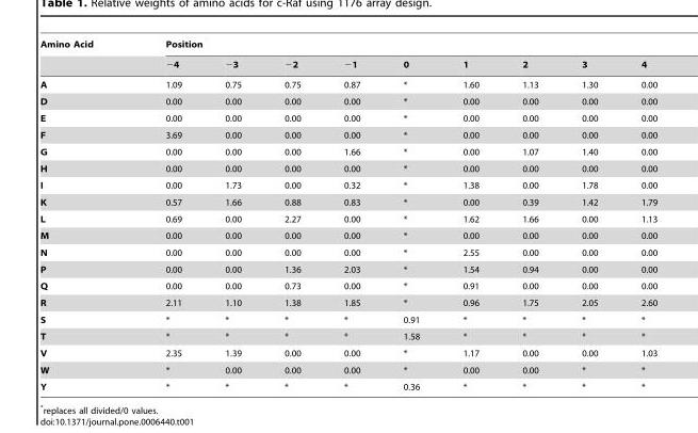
<table><thead><tr><td rowspan="2">Amino Acid</td><td colspan="9">Position</td></tr><tr><td>−4</td><td>−3</td><td>−2</td><td>−1</td><td>0</td><td>1</td><td>2</td><td>3</td><td>4</td></tr></thead><tbody><tr><td>A</td><td>1.09</td><td>0.75</td><td>0.75</td><td>0.87</td><td>*</td><td>1.60</td><td>1.13</td><td>1.30</td><td>0.00</td></tr><tr><td>D</td><td>0.00</td><td>0.00</td><td>0.00</td><td>0.00</td><td>*</td><td>0.00</td><td>0.00</td><td>0.00</td><td>0.00</td></tr><tr><td>E</td><td>0.00</td><td>0.00</td><td>0.00</td><td>0.00</td><td>*</td><td>0.00</td><td>0.00</td><td>0.00</td><td>0.00</td></tr><tr><td>F</td><td>3.69</td><td>0.00</td><td>0.00</td><td>0.00</td><td>*</td><td>0.00</td><td>0.00</td><td>0.00</td><td>0.00</td></tr><tr><td>G</td><td>0.00</td><td>0.00</td><td>0.00</td><td>1.66</td><td>*</td><td>0.00</td><td>1.07</td><td>1.40</td><td>0.00</td></tr><tr><td>H</td><td>0.00</td><td>0.00</td><td>0.00</td><td>0.00</td><td>*</td><td>0.00</td><td>0.00</td><td>0.00</td><td>0.00</td></tr><tr><td>I</td><td>0.00</td><td>1.73</td><td>0.00</td><td>0.32</td><td>*</td><td>1.38</td><td>0.00</td><td>1.78</td><td>0.00</td></tr><tr><td>K</td><td>0.57</td><td>1.66</td><td>0.88</td><td>0.83</td><td>*</td><td>0.00</td><td>0.39</td><td>1.42</td><td>1.79</td></tr><tr><td>L</td><td>0.69</td><td>0.00</td><td>2.27</td><td>0.00</td><td>*</td><td>1.62</td><td>1.66</td><td>0.00</td><td>1.13</td></tr><tr><td>M</td><td>0.00</td><td>0.00</td><td>0.00</td><td>0.00</td><td>*</td><td>0.00</td><td>0.00</td><td>0.00</td><td>0.00</td></tr><tr><td>N</td><td>0.00</td><td>0.00</td><td>0.00</td><td>0.00</td><td>*</td><td>2.55</td><td>0.00</td><td>0.00</td><td>0.00</td></tr><tr><td>P</td><td>0.00</td><td>0.00</td><td>1.36</td><td>2.03</td><td>*</td><td>1.54</td><td>0.94</td><td>0.00</td><td>0.00</td></tr><tr><td>Q</td><td>0.00</td><td>0.00</td><td>0.73</td><td>0.00</td><td>*</td><td>0.91</td><td>0.00</td><td>0.00</td><td>0.00</td></tr><tr><td>R</td><td>2.11</td><td>1.10</td><td>1.38</td><td>1.85</td><td>*</td><td>0.96</td><td>1.75</td><td>2.05</td><td>2.60</td></tr><tr><td>S</td><td>*</td><td>*</td><td>*</td><td>*</td><td>0.91</td><td>*</td><td>*</td><td>*</td><td>*</td></tr><tr><td>T</td><td>*</td><td>*</td><td>*</td><td>*</td><td>1.58</td><td>*</td><td>*</td><td>*</td><td>*</td></tr><tr><td>V</td><td>2.35</td><td>1.39</td><td>0.00</td><td>0.00</td><td>*</td><td>1.17</td><td>0.00</td><td>0.00</td><td>1.03</td></tr><tr><td>W</td><td>*</td><td>0.00</td><td>0.00</td><td>0.00</td><td>*</td><td>0.00</td><td>0.00</td><td>*</td><td>*</td></tr><tr><td>Y</td><td>*</td><td>*</td><td>*</td><td>*</td><td>0.36</td><td>*</td><td>*</td><td>*</td><td>*</td></tr></tbody></table>